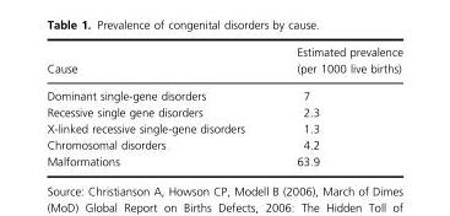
<table><thead><tr><td>Cause</td><td>Estimated prevalence (per 1000 live births)</td></tr></thead><tbody><tr><td>Dominant single-gene disorders</td><td>7</td></tr><tr><td>Recessive single gene disorders</td><td>2.3</td></tr><tr><td>X-linked recessive single-gene disorders</td><td>1.3</td></tr><tr><td>Chromosomal disorders</td><td>4.2</td></tr><tr><td>Malformations</td><td>63.9</td></tr></tbody></table>